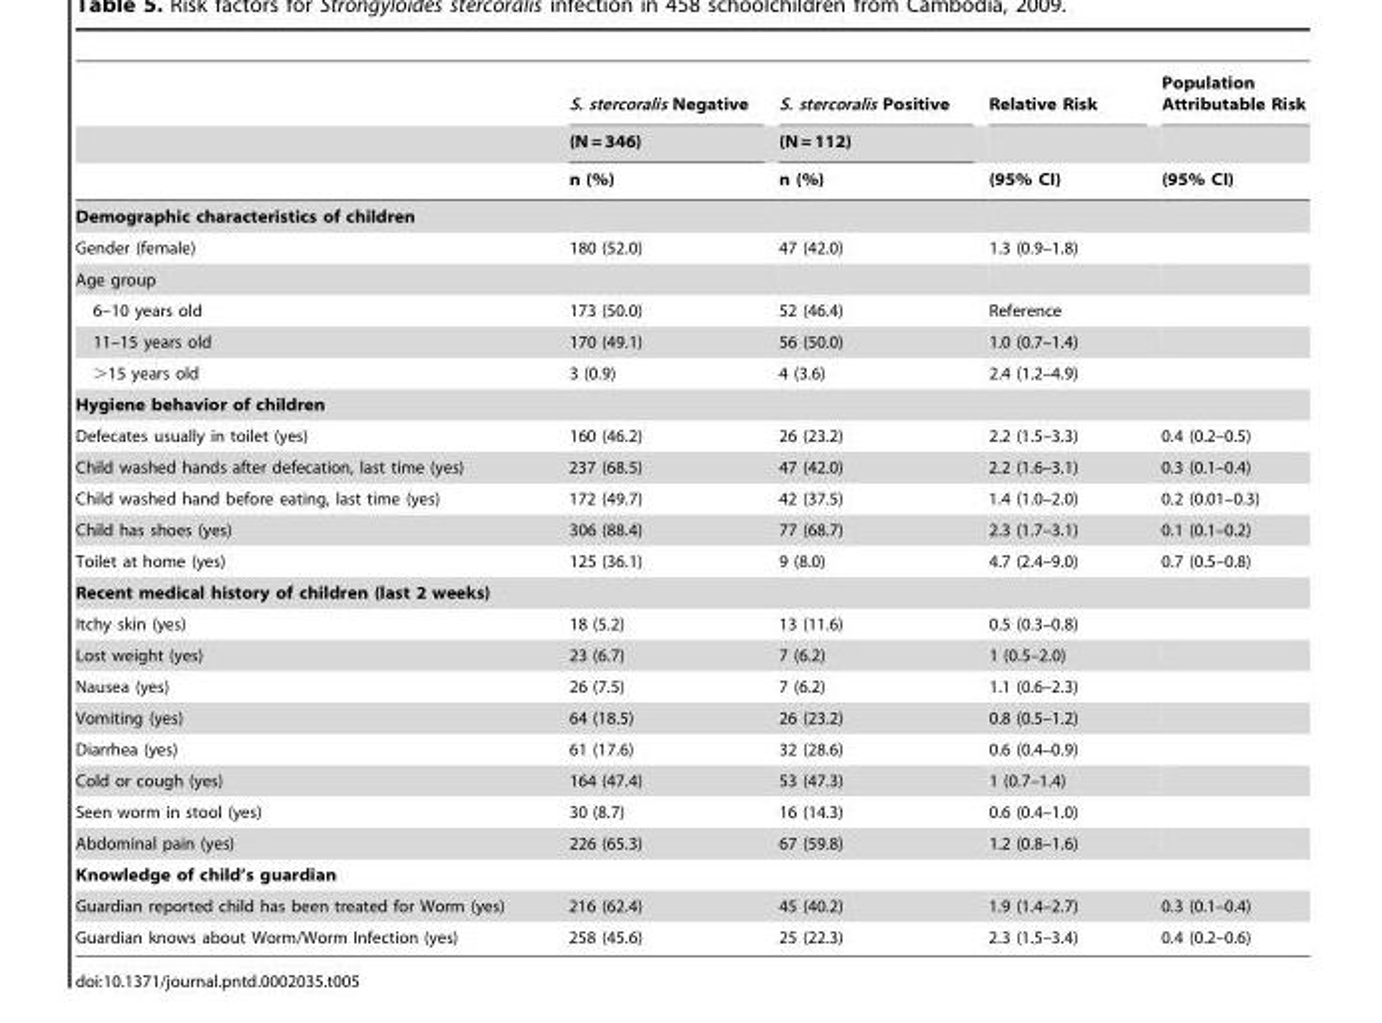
<table><thead><tr><td rowspan="3"></td><td rowspan="3">S. stercoralis Negative (N = 346) n (%)</td><td rowspan="3">S. stercoralis Positive (N = 112) n (%)</td><td rowspan="3">Relative Risk (95% CI)</td><td rowspan="3">Population Attributable Risk (95% CI)</td></tr><tr></tr><tr></tr></thead><tbody><tr><td colspan="5">Demographic characteristics of children</td></tr><tr><td>Gender (female)</td><td>180 (52.0)</td><td>47 (42.0)</td><td>1.3 (0.9–1.8)</td><td></td></tr><tr><td colspan="5">Age group</td></tr><tr><td>6–10 years old</td><td>173 (50.0)</td><td>52 (46.4)</td><td>Reference</td><td></td></tr><tr><td>11–15 years old</td><td>170 (49.1)</td><td>56 (50.0)</td><td>1.0 (0.7–1.4)</td><td></td></tr><tr><td>&gt;15 years old</td><td>3 (0.9)</td><td>4 (3.6)</td><td>2.4 (1.2–4.9)</td><td></td></tr><tr><td colspan="5">Hygiene behavior of children</td></tr><tr><td>Defecates usually in toilet (yes)</td><td>160 (46.2)</td><td>26 (23.2)</td><td>2.2 (1.5–3.3)</td><td>0.4 (0.2–0.5)</td></tr><tr><td>Child washed hands after defecation, last time (yes)</td><td>237 (68.5)</td><td>47 (42.0)</td><td>2.2 (1.6–3.1)</td><td>0.3 (0.1–0.4)</td></tr><tr><td>Child washed hand before eating, last time (yes)</td><td>172 (49.7)</td><td>42 (37.5)</td><td>1.4 (1.0–2.0)</td><td>0.2 (0.01–0.3)</td></tr><tr><td>Child has shoes (yes)</td><td>306 (88.4)</td><td>77 (68.7)</td><td>2.3 (1.7–3.1)</td><td>0.1 (0.1–0.2)</td></tr><tr><td>Toilet at home (yes)</td><td>125 (36.1)</td><td>9 (8.0)</td><td>4.7 (2.4–9.0)</td><td>0.7 (0.5–0.8)</td></tr><tr><td colspan="5">Recent medical history of children (last 2 weeks)</td></tr><tr><td>Itchy skin (yes)</td><td>18 (5.2)</td><td>13 (11.6)</td><td>0.5 (0.3–0.8)</td><td></td></tr><tr><td>Lost weight (yes)</td><td>23 (6.7)</td><td>7 (6.2)</td><td>1 (0.5–2.0)</td><td></td></tr><tr><td>Nausea (yes)</td><td>26 (7.5)</td><td>7 (6.2)</td><td>1.1 (0.6–2.3)</td><td></td></tr><tr><td>Vomiting (yes)</td><td>64 (18.5)</td><td>26 (23.2)</td><td>0.8 (0.5–1.2)</td><td></td></tr><tr><td>Diarrhea (yes)</td><td>61 (17.6)</td><td>32 (28.6)</td><td>0.6 (0.4–0.9)</td><td></td></tr><tr><td>Cold or cough (yes)</td><td>164 (47.4)</td><td>53 (47.3)</td><td>1 (0.7–1.4)</td><td></td></tr><tr><td>Seen worm in stool (yes)</td><td>30 (8.7)</td><td>16 (14.3)</td><td>0.6 (0.4–1.0)</td><td></td></tr><tr><td>Abdominal pain (yes)</td><td>226 (65.3)</td><td>67 (59.8)</td><td>1.2 (0.8–1.6)</td><td></td></tr><tr><td colspan="5">Knowledge of child’s guardian</td></tr><tr><td>Guardian reported child has been treated for Worm (yes)</td><td>216 (62.4)</td><td>45 (40.2)</td><td>1.9 (1.4–2.7)</td><td>0.3 (0.1–0.4)</td></tr><tr><td>Guardian knows about Worm/Worm Infection (yes)</td><td>258 (45.6)</td><td>25 (22.3)</td><td>2.3 (1.5–3.4)</td><td>0.4 (0.2–0.6)</td></tr></tbody></table>